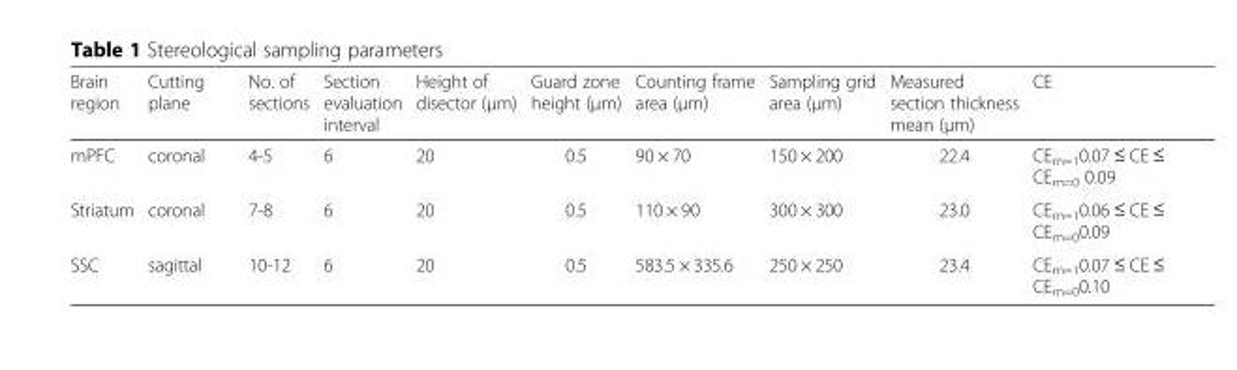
<table><thead><tr><td>Brain region</td><td>Cutting plane</td><td>No. of sections</td><td>Section evaluation interval</td><td>Height of disector (μm)</td><td>Guard zone height (μm)</td><td>Counting frame area (μm)</td><td>Sampling grid area (μm)</td><td>Measured section thickness mean (μm)</td><td>CE</td></tr></thead><tbody><tr><td>mPFC</td><td>coronal</td><td>4-5</td><td>6</td><td>20</td><td>0.5</td><td>90 × 70</td><td>150 × 200</td><td>22.4</td><td>CE<sub>m=1</sub>0.07 ≤ CE ≤ CE<sub>m=0</sub> 0.09</td></tr><tr><td>Striatum</td><td>coronal</td><td>7-8</td><td>6</td><td>20</td><td>0.5</td><td>110 × 90</td><td>300 × 300</td><td>23.0</td><td>CE<sub>m=1</sub>0.06 ≤ CE ≤ CE<sub>m=0</sub>0.09</td></tr><tr><td>SSC</td><td>sagittal</td><td>10-12</td><td>6</td><td>20</td><td>0.5</td><td>583.5 × 335.6</td><td>250 × 250</td><td>23.4</td><td>CE<sub>m=1</sub>0.07 ≤ CE ≤ CE<sub>m=0</sub>0.10</td></tr></tbody></table>